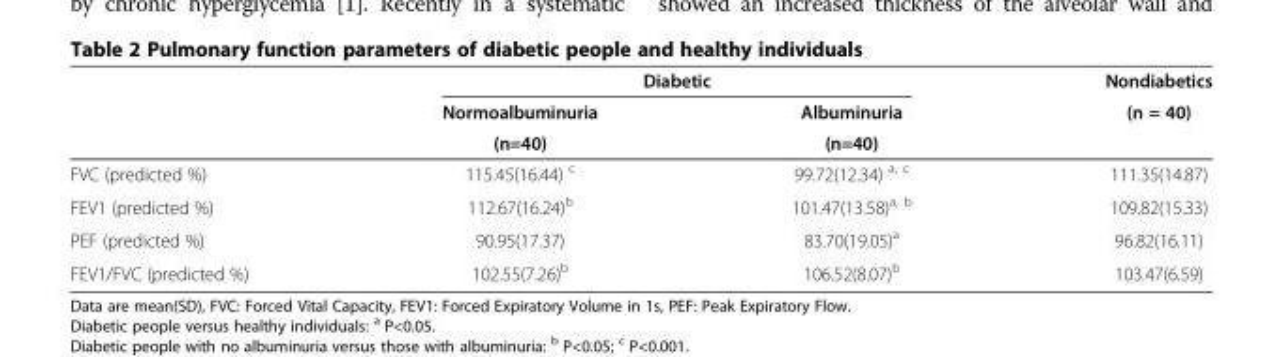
<table><thead><tr><td rowspan="3"></td><td colspan="2">Diabetic</td><td rowspan="3">Nondiabetics (n = 40)</td></tr><tr><td rowspan="2">Normoalbuminuria (n=40)</td><td rowspan="2">Albuminuria (n=40)</td></tr><tr></tr></thead><tbody><tr><td>FVC (predicted %)</td><td>115.45(16.44) <sup>c</sup></td><td>99.72(12.34) <sup>a, c</sup></td><td>111.35(14.87)</td></tr><tr><td>FEV1 (predicted %)</td><td>112.67(16.24)<sup>b</sup></td><td>101.47(13.58)<sup>a, b</sup></td><td>109.82(15.33)</td></tr><tr><td>PEF (predicted %)</td><td>90.95(17.37)</td><td>83.70(19.05)<sup>a</sup></td><td>96.82(16.11)</td></tr><tr><td>FEV1/FVC (predicted %)</td><td>102.55(7.26)<sup>b</sup></td><td>106.52(8.07)<sup>b</sup></td><td>103.47(6.59)</td></tr></tbody></table>